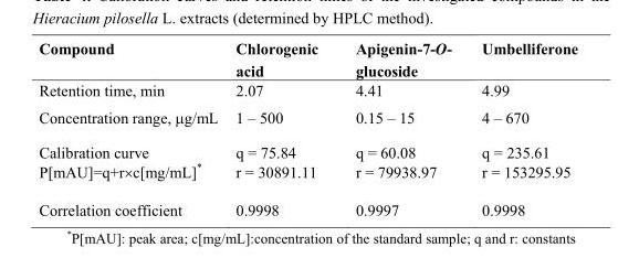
<table><thead><tr><td>Compound</td><td>Chlorogenic acid</td><td>Apigenin-7-O- glucoside</td><td>Umbelliferone</td></tr></thead><tbody><tr><td>Retention time, min</td><td>2.07</td><td>4.41</td><td>4.99</td></tr><tr><td>Concentration range, μg/mL</td><td>1 – 500</td><td>0.15 – 15</td><td>4 – 670</td></tr><tr><td>Calibration curve P[mAU]=q+r×c[mg/mL]*</td><td>q = 75.84 r = 30891.11</td><td>q = 60.08 r = 79938.97</td><td>q = 235.61 r = 153295.95</td></tr><tr><td>Correlation coefficient</td><td>0.9998</td><td>0.9997</td><td>0.9998</td></tr></tbody></table>